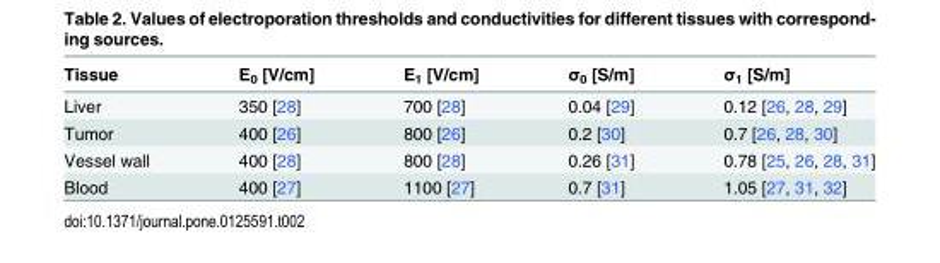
<table><thead><tr><td>Tissue</td><td>E<sub>0</sub> [V/cm]</td><td>E<sub>1</sub> [V/cm]</td><td>σ<sub>0</sub> [S/m]</td><td>σ<sub>1</sub> [S/m]</td></tr></thead><tbody><tr><td>Liver</td><td>350 [28]</td><td>700 [28]</td><td>0.04 [29]</td><td>0.12 [26, 28, 29]</td></tr><tr><td>Tumor</td><td>400 [26]</td><td>800 [26]</td><td>0.2 [30]</td><td>0.7 [26, 28, 30]</td></tr><tr><td>Vessel wall</td><td>400 [28]</td><td>800 [28]</td><td>0.26 [31]</td><td>0.78 [25, 26, 28, 31]</td></tr><tr><td>Blood</td><td>400 [27]</td><td>1100 [27]</td><td>0.7 [31]</td><td>1.05 [27, 31, 32]</td></tr></tbody></table>